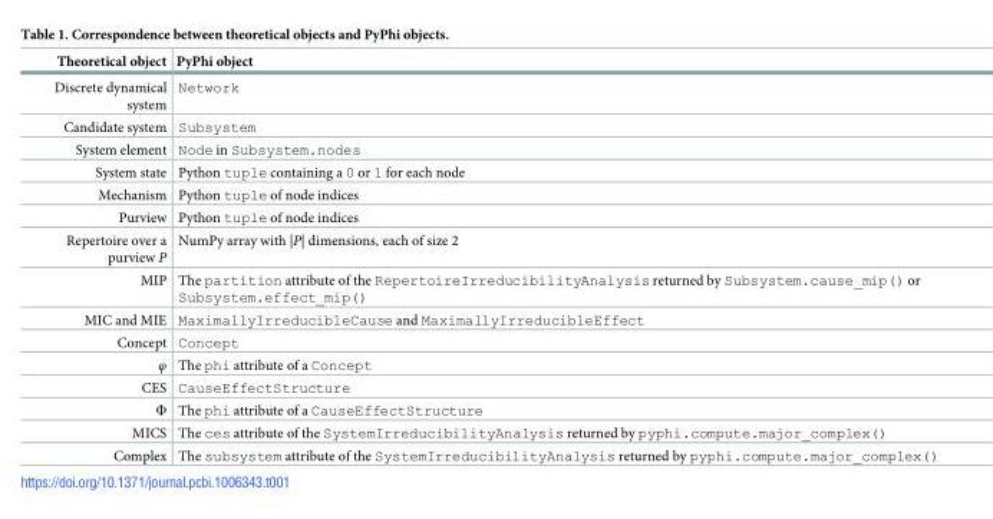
<table><thead><tr><td>Theoretical object</td><td>PyPhi object</td></tr></thead><tbody><tr><td>Discrete dynamical system</td><td>Network</td></tr><tr><td>Candidate system</td><td>Subsystem</td></tr><tr><td>System element</td><td>Node in Subsystem.nodes</td></tr><tr><td>System state</td><td>Python tuple containing a 0 or 1 for each node</td></tr><tr><td>Mechanism</td><td>Python tuple of node indices</td></tr><tr><td>Purview</td><td>Python tuple of node indices</td></tr><tr><td>Repertoire over a purview P</td><td>NumPy array with |P| dimensions, each of size 2</td></tr><tr><td>MIP</td><td>The partition attribute of the RepertoireIrreducibilityAnalysis returned by Subsystem.cause_mip() or Subsystem.effect_mip()</td></tr><tr><td>MIC and MIE</td><td>MaximallyIrreducibleCause and MaximallyIrreducibleEffect</td></tr><tr><td>Concept</td><td>Concept</td></tr><tr><td>φ</td><td>The phi attribute of a Concept</td></tr><tr><td>CES</td><td>CauseEffectStructure</td></tr><tr><td>Φ</td><td>The phi attribute of a CauseEffectStructure</td></tr><tr><td>MICS</td><td>The ces attribute of the SystemIrreducibilityAnalysis returned by pyphi.compute.major_complex()</td></tr><tr><td>Complex</td><td>The subsystem attribute of the SystemIrreducibilityAnalysis returned by pyphi.compute.major_complex()</td></tr></tbody></table>